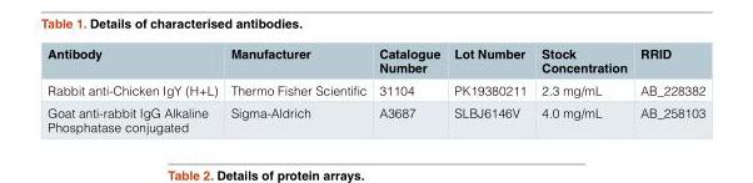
<table><thead><tr><td>Antibody</td><td>Manufacturer</td><td>Catalogue Number</td><td>Lot Number</td><td>Stock Concentration</td><td>RRID</td></tr></thead><tbody><tr><td>Rabbit anti-Chicken IgY (H+L)</td><td>Thermo Fisher Scientific</td><td>31104</td><td>PK19380211</td><td>2.3 mg/mL</td><td>AB_228382</td></tr><tr><td>Goat anti-rabbit IgG Alkaline Phosphatase conjugated</td><td>Sigma-Aldrich</td><td>A3687</td><td>SLBJ6146V</td><td>4.0 mg/mL</td><td>AB_258103</td></tr></tbody></table>